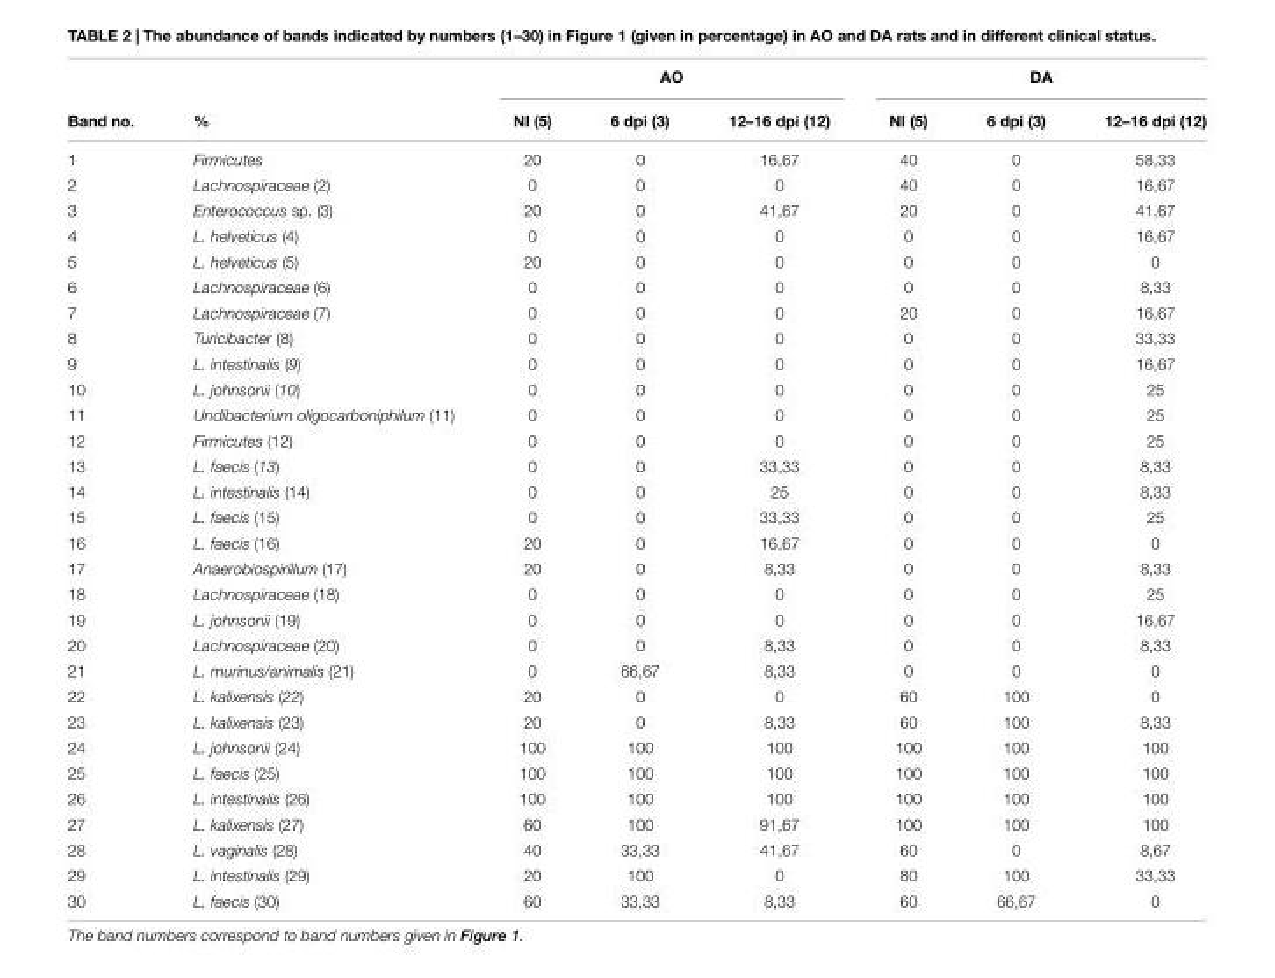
<table><thead><tr><td rowspan="2">Band no.</td><td rowspan="2">%</td><td colspan="3">AO</td><td colspan="3">DA</td></tr><tr><td>NI (5)</td><td>6 dpi (3)</td><td>12–16 dpi (12)</td><td>NI (5)</td><td>6 dpi (3)</td><td>12–16 dpi (12)</td></tr></thead><tbody><tr><td>1</td><td>Firmicutes</td><td>20</td><td>0</td><td>16,67</td><td>40</td><td>0</td><td>58,33</td></tr><tr><td>2</td><td>Lachnospiraceae (2)</td><td>0</td><td>0</td><td>0</td><td>40</td><td>0</td><td>16,67</td></tr><tr><td>3</td><td>Enterococcus sp. (3)</td><td>20</td><td>0</td><td>41,67</td><td>20</td><td>0</td><td>41,67</td></tr><tr><td>4</td><td>L. helveticus (4)</td><td>0</td><td>0</td><td>0</td><td>0</td><td>0</td><td>16,67</td></tr><tr><td>5</td><td>L. helveticus (5)</td><td>20</td><td>0</td><td>0</td><td>0</td><td>0</td><td>0</td></tr><tr><td>6</td><td>Lachnospiraceae (6)</td><td>0</td><td>0</td><td>0</td><td>0</td><td>0</td><td>8,33</td></tr><tr><td>7</td><td>Lachnospiraceae (7)</td><td>0</td><td>0</td><td>0</td><td>20</td><td>0</td><td>16,67</td></tr><tr><td>8</td><td>Turicibacter (8)</td><td>0</td><td>0</td><td>0</td><td>0</td><td>0</td><td>33,33</td></tr><tr><td>9</td><td>L. intestinalis (9)</td><td>0</td><td>0</td><td>0</td><td>0</td><td>0</td><td>16,67</td></tr><tr><td>10</td><td>L. johnsonii (10)</td><td>0</td><td>0</td><td>0</td><td>0</td><td>0</td><td>25</td></tr><tr><td>11</td><td>Undibacterium oligocarboniphilum (11)</td><td>0</td><td>0</td><td>0</td><td>0</td><td>0</td><td>25</td></tr><tr><td>12</td><td>Firmicutes (12)</td><td>0</td><td>0</td><td>0</td><td>0</td><td>0</td><td>25</td></tr><tr><td>13</td><td>L. faecis (13)</td><td>0</td><td>0</td><td>33,33</td><td>0</td><td>0</td><td>8,33</td></tr><tr><td>14</td><td>L. intestinalis (14)</td><td>0</td><td>0</td><td>25</td><td>0</td><td>0</td><td>8,33</td></tr><tr><td>15</td><td>L. faecis (15)</td><td>0</td><td>0</td><td>33,33</td><td>0</td><td>0</td><td>25</td></tr><tr><td>16</td><td>L. faecis (16)</td><td>20</td><td>0</td><td>16,67</td><td>0</td><td>0</td><td>0</td></tr><tr><td>17</td><td>Anaerobiospirillum (17)</td><td>20</td><td>0</td><td>8,33</td><td>0</td><td>0</td><td>8,33</td></tr><tr><td>18</td><td>Lachnospiraceae (18)</td><td>0</td><td>0</td><td>0</td><td>0</td><td>0</td><td>25</td></tr><tr><td>19</td><td>L. johnsonii (19)</td><td>0</td><td>0</td><td>0</td><td>0</td><td>0</td><td>16,67</td></tr><tr><td>20</td><td>Lachnospiraceae (20)</td><td>0</td><td>0</td><td>8,33</td><td>0</td><td>0</td><td>8,33</td></tr><tr><td>21</td><td>L. murinus/animalis (21)</td><td>0</td><td>66,67</td><td>8,33</td><td>0</td><td>0</td><td>0</td></tr><tr><td>22</td><td>L. kalixensis (22)</td><td>20</td><td>0</td><td>0</td><td>60</td><td>100</td><td>0</td></tr><tr><td>23</td><td>L. kalixensis (23)</td><td>20</td><td>0</td><td>8,33</td><td>60</td><td>100</td><td>8,33</td></tr><tr><td>24</td><td>L. johnsonii (24)</td><td>100</td><td>100</td><td>100</td><td>100</td><td>100</td><td>100</td></tr><tr><td>25</td><td>L. faecis (25)</td><td>100</td><td>100</td><td>100</td><td>100</td><td>100</td><td>100</td></tr><tr><td>26</td><td>L. intestinalis (26)</td><td>100</td><td>100</td><td>100</td><td>100</td><td>100</td><td>100</td></tr><tr><td>27</td><td>L. kalixensis (27)</td><td>60</td><td>100</td><td>91,67</td><td>100</td><td>100</td><td>100</td></tr><tr><td>28</td><td>L. vaginalis (28)</td><td>40</td><td>33,33</td><td>41,67</td><td>60</td><td>0</td><td>8,67</td></tr><tr><td>29</td><td>L. intestinalis (29)</td><td>20</td><td>100</td><td>0</td><td>80</td><td>100</td><td>33,33</td></tr><tr><td>30</td><td>L. faecis (30)</td><td>60</td><td>33,33</td><td>8,33</td><td>60</td><td>66,67</td><td>0</td></tr></tbody></table>